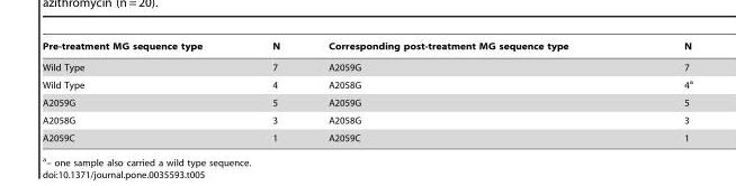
<table><thead><tr><td>Pre-treatment MG sequence type</td><td>N</td><td>Corresponding post-treatment MG sequence type</td><td>N</td></tr></thead><tbody><tr><td>Wild Type</td><td>7</td><td>A2059G</td><td>7</td></tr><tr><td>Wild Type</td><td>4</td><td>A2058G</td><td>4<sup>a</sup></td></tr><tr><td>A2059G</td><td>5</td><td>A2059G</td><td>5</td></tr><tr><td>A2058G</td><td>3</td><td>A2058G</td><td>3</td></tr><tr><td>A2059C</td><td>1</td><td>A2059C</td><td>1</td></tr></tbody></table>